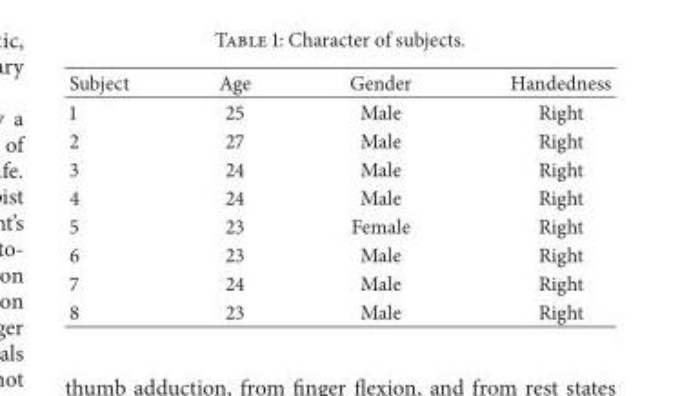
<table><thead><tr><td>Subject</td><td>Age</td><td>Gender</td><td>Handedness</td></tr></thead><tbody><tr><td>1</td><td>25</td><td>Male</td><td>Right</td></tr><tr><td>2</td><td>27</td><td>Male</td><td>Right</td></tr><tr><td>3</td><td>24</td><td>Male</td><td>Right</td></tr><tr><td>4</td><td>24</td><td>Male</td><td>Right</td></tr><tr><td>5</td><td>23</td><td>Female</td><td>Right</td></tr><tr><td>6</td><td>23</td><td>Male</td><td>Right</td></tr><tr><td>7</td><td>24</td><td>Male</td><td>Right</td></tr><tr><td>8</td><td>23</td><td>Male</td><td>Right</td></tr></tbody></table>